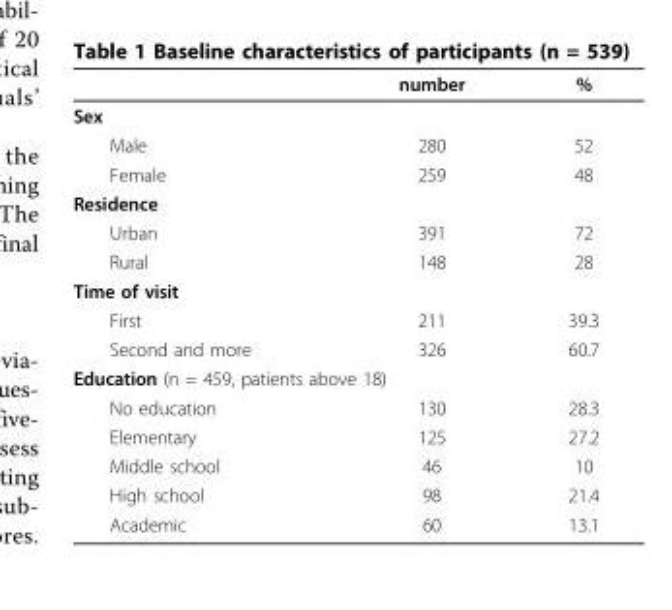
<table><thead><tr><td></td><td>number</td><td>%</td></tr></thead><tbody><tr><td colspan="3">Sex</td></tr><tr><td>Male</td><td>280</td><td>52</td></tr><tr><td>Female</td><td>259</td><td>48</td></tr><tr><td colspan="3">Residence</td></tr><tr><td>Urban</td><td>391</td><td>72</td></tr><tr><td>Rural</td><td>148</td><td>28</td></tr><tr><td colspan="3">Time of visit</td></tr><tr><td>First</td><td>211</td><td>39.3</td></tr><tr><td>Second and more</td><td>326</td><td>60.7</td></tr><tr><td colspan="3">Education (n = 459, patients above 18)</td></tr><tr><td>No education</td><td>130</td><td>28.3</td></tr><tr><td>Elementary</td><td>125</td><td>27.2</td></tr><tr><td>Middle school</td><td>46</td><td>10</td></tr><tr><td>High school</td><td>98</td><td>21.4</td></tr><tr><td>Academic</td><td>60</td><td>13.1</td></tr></tbody></table>